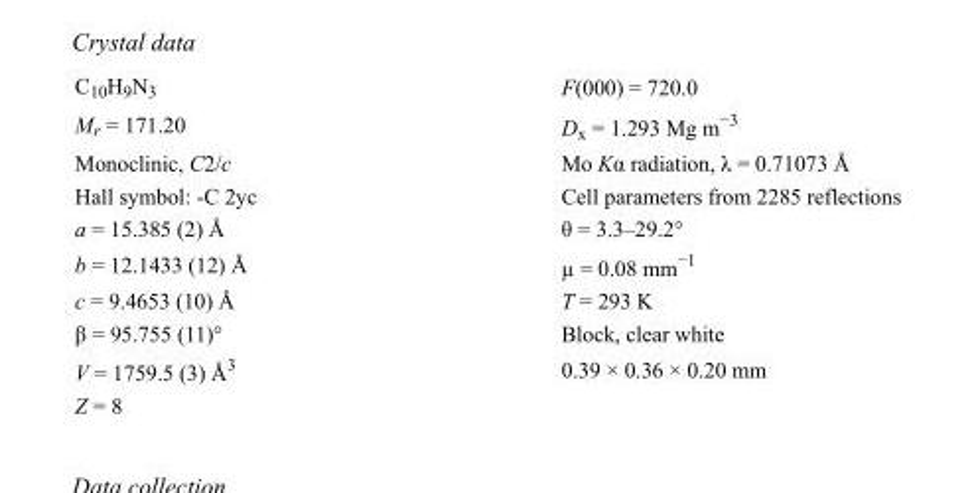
<table><tbody><tr><td>C<sub>10</sub>H<sub>9</sub>N<sub>3</sub></td><td>F(000) = 720.0</td></tr><tr><td>M<sub>r</sub> = 171.20</td><td>D<sub>x</sub> = 1.293 Mg m<sup>−3</sup></td></tr><tr><td>Monoclinic, C2/c</td><td>Mo Kα radiation, λ = 0.71073 Å</td></tr><tr><td>Hall symbol: -C 2yc</td><td>Cell parameters from 2285 reflections</td></tr><tr><td>a = 15.385 (2) Å</td><td>θ = 3.3–29.2°</td></tr><tr><td>b = 12.1433 (12) Å</td><td>µ = 0.08 mm<sup>−1</sup></td></tr><tr><td>c = 9.4653 (10) Å</td><td>T = 293 K</td></tr><tr><td>β = 95.755 (11)°</td><td>Block, clear white</td></tr><tr><td>V = 1759.5 (3) Å<sup>3</sup></td><td>0.39 × 0.36 × 0.20 mm</td></tr><tr><td>Z = 8</td><td></td></tr></tbody></table>